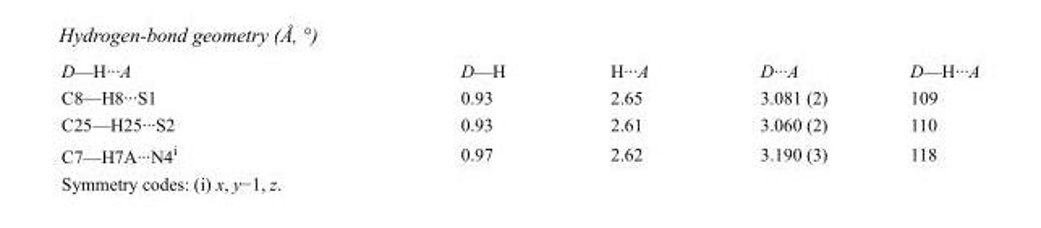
<table><tbody><tr><td>D—H···A</td><td>D—H</td><td>H···A</td><td>D···A</td><td>D—H···A</td></tr><tr><td>C8—H8···S1</td><td>0.93</td><td>2.65</td><td>3.081 (2)</td><td>109</td></tr><tr><td>C25—H25···S2</td><td>0.93</td><td>2.61</td><td>3.060 (2)</td><td>110</td></tr><tr><td>C7—H7A···N4<sup>i</sup></td><td>0.97</td><td>2.62</td><td>3.190 (3)</td><td>118</td></tr></tbody></table>